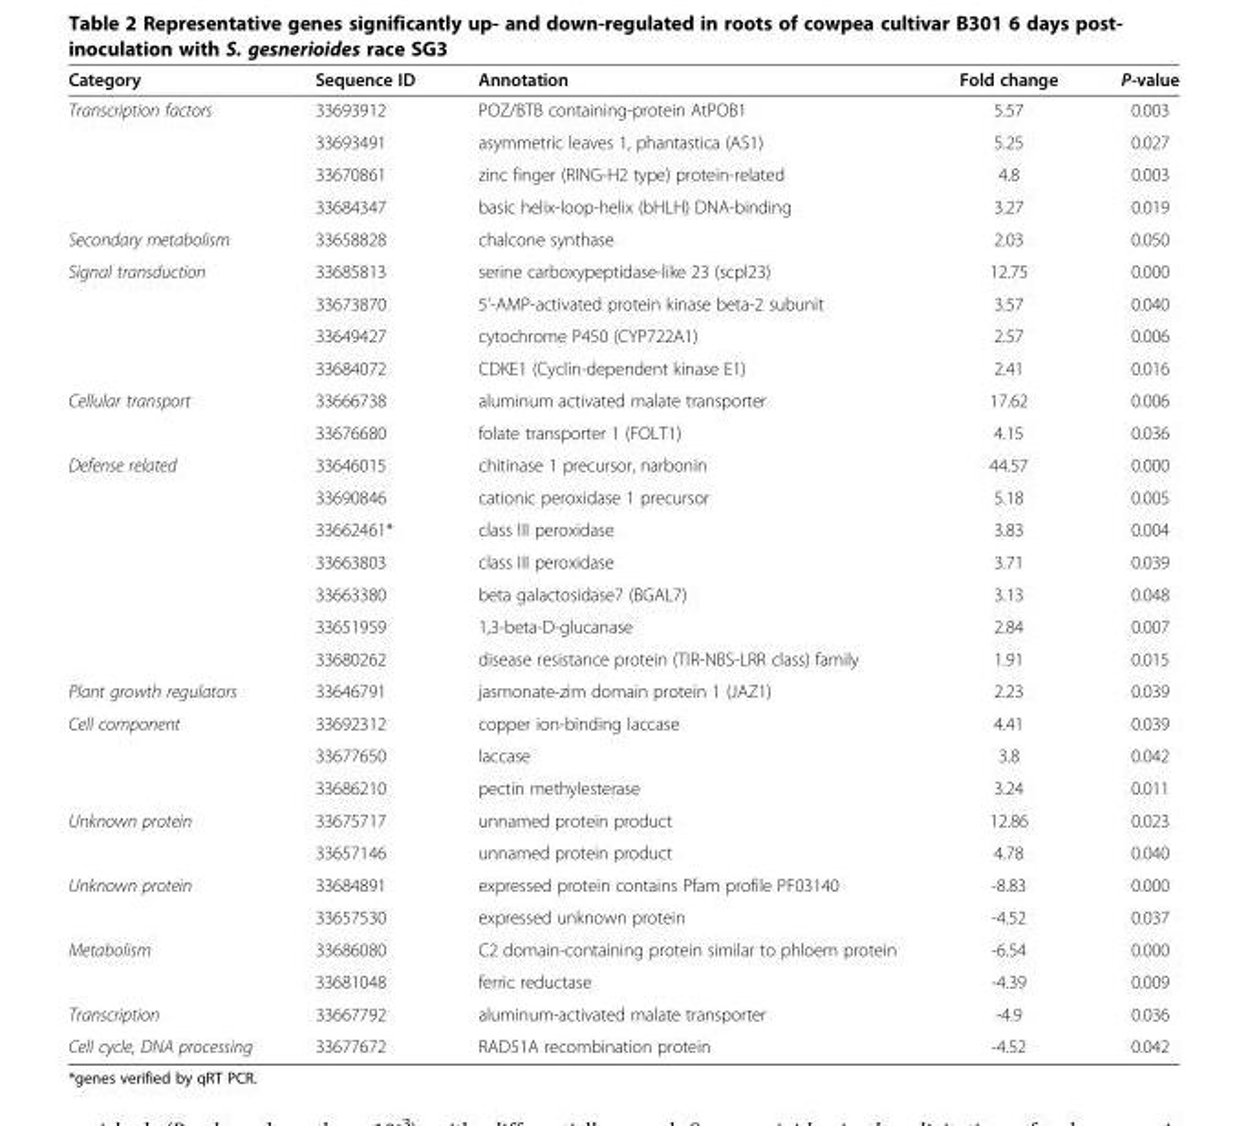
<table><thead><tr><td>Category</td><td>Sequence ID</td><td>Annotation</td><td>Fold change</td><td>P-value</td></tr></thead><tbody><tr><td rowspan="4">Transcription factors</td><td>33693912</td><td>POZ/BTB containing-protein AtPOB1</td><td>5.57</td><td>0.003</td></tr><tr><td>33693491</td><td>asymmetric leaves 1, phantastica (AS1)</td><td>5.25</td><td>0.027</td></tr><tr><td>33670861</td><td>zinc finger (RING-H2 type) protein-related</td><td>4.8</td><td>0.003</td></tr><tr><td>33684347</td><td>basic helix-loop-helix (bHLH) DNA-binding</td><td>3.27</td><td>0.019</td></tr><tr><td>Secondary metabolism</td><td>33658828</td><td>chalcone synthase</td><td>2.03</td><td>0.050</td></tr><tr><td rowspan="4">Signal transduction</td><td>33685813</td><td>serine carboxypeptidase-like 23 (scpl23)</td><td>12.75</td><td>0.000</td></tr><tr><td>33673870</td><td>5&#x27;-AMP-activated protein kinase beta-2 subunit</td><td>3.57</td><td>0.040</td></tr><tr><td>33649427</td><td>cytochrome P450 (CYP722A1)</td><td>2.57</td><td>0.006</td></tr><tr><td>33684072</td><td>CDKE1 (Cyclin-dependent kinase E1)</td><td>2.41</td><td>0.016</td></tr><tr><td rowspan="2">Cellular transport</td><td>33666738</td><td>aluminum activated malate transporter</td><td>17.62</td><td>0.006</td></tr><tr><td>33676680</td><td>folate transporter 1 (FOLT1)</td><td>4.15</td><td>0.036</td></tr><tr><td rowspan="7">Defense related</td><td>33646015</td><td>chitinase 1 precursor, narbonin</td><td>44.57</td><td>0.000</td></tr><tr><td>33690846</td><td>cationic peroxidase 1 precursor</td><td>5.18</td><td>0.005</td></tr><tr><td>33662461*</td><td>class III peroxidase</td><td>3.83</td><td>0.004</td></tr><tr><td>33663803</td><td>class III peroxidase</td><td>3.71</td><td>0.039</td></tr><tr><td>33663380</td><td>beta galactosidase7 (BGAL7)</td><td>3.13</td><td>0.048</td></tr><tr><td>33651959</td><td>1,3-beta-D-glucanase</td><td>2.84</td><td>0.007</td></tr><tr><td>33680262</td><td>disease resistance protein (TIR-NBS-LRR class) family</td><td>1.91</td><td>0.015</td></tr><tr><td>Plant growth regulators</td><td>33646791</td><td>jasmonate-zim domain protein 1 (JAZ1)</td><td>2.23</td><td>0.039</td></tr><tr><td rowspan="3">Cell component</td><td>33692312</td><td>copper ion-binding laccase</td><td>4.41</td><td>0.039</td></tr><tr><td>33677650</td><td>laccase</td><td>3.8</td><td>0.042</td></tr><tr><td>33686210</td><td>pectin methylesterase</td><td>3.24</td><td>0.011</td></tr><tr><td rowspan="2">Unknown protein</td><td>33675717</td><td>unnamed protein product</td><td>12.86</td><td>0.023</td></tr><tr><td>33657146</td><td>unnamed protein product</td><td>4.78</td><td>0.040</td></tr><tr><td rowspan="2">Unknown protein</td><td>33684891</td><td>expressed protein contains Pfam profile PF03140</td><td>-8.83</td><td>0.000</td></tr><tr><td>33657530</td><td>expressed unknown protein</td><td>-4.52</td><td>0.037</td></tr><tr><td rowspan="2">Metabolism</td><td>33686080</td><td>C2 domain-containing protein similar to phloem protein</td><td>-6.54</td><td>0.000</td></tr><tr><td>33681048</td><td>ferric reductase</td><td>-4.39</td><td>0.009</td></tr><tr><td>Transcription</td><td>33667792</td><td>aluminum-activated malate transporter</td><td>-4.9</td><td>0.036</td></tr><tr><td>Cell cycle, DNA processing</td><td>33677672</td><td>RAD51A recombination protein</td><td>-4.52</td><td>0.042</td></tr></tbody></table>